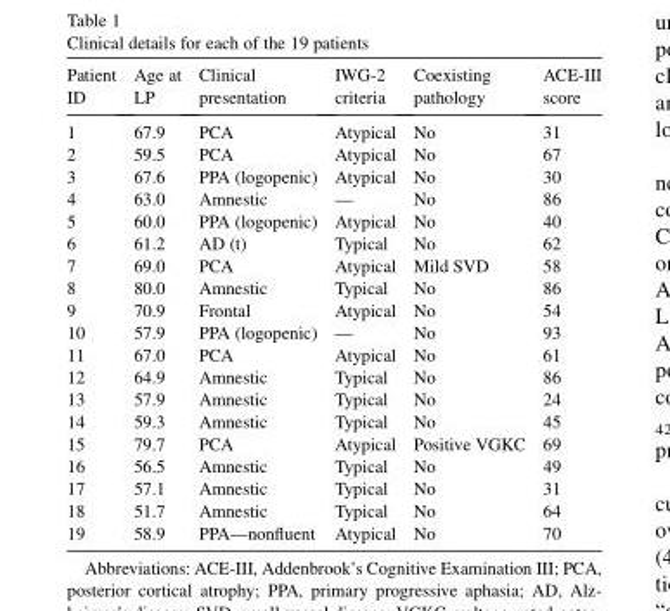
<table><thead><tr><td>Patient ID</td><td>Age at LP</td><td>Clinical presentation</td><td>IWG-2 criteria</td><td>Coexisting pathology</td><td>ACE-III score</td></tr></thead><tbody><tr><td>1</td><td>67.9</td><td>PCA</td><td>Atypical</td><td>No</td><td>31</td></tr><tr><td>2</td><td>59.5</td><td>PCA</td><td>Atypical</td><td>No</td><td>67</td></tr><tr><td>3</td><td>67.6</td><td>PPA (logopenic)</td><td>Atypical</td><td>No</td><td>30</td></tr><tr><td>4</td><td>63.0</td><td>Amnestic</td><td>—</td><td>No</td><td>86</td></tr><tr><td>5</td><td>60.0</td><td>PPA (logopenic)</td><td>Atypical</td><td>No</td><td>40</td></tr><tr><td>6</td><td>61.2</td><td>AD (t)</td><td>Typical</td><td>No</td><td>62</td></tr><tr><td>7</td><td>69.0</td><td>PCA</td><td>Atypical</td><td>Mild SVD</td><td>58</td></tr><tr><td>8</td><td>80.0</td><td>Amnestic</td><td>Typical</td><td>No</td><td>86</td></tr><tr><td>9</td><td>70.9</td><td>Frontal</td><td>Atypical</td><td>No</td><td>54</td></tr><tr><td>10</td><td>57.9</td><td>PPA (logopenic)</td><td>—</td><td>No</td><td>93</td></tr><tr><td>11</td><td>67.0</td><td>PCA</td><td>Atypical</td><td>No</td><td>61</td></tr><tr><td>12</td><td>64.9</td><td>Amnestic</td><td>Typical</td><td>No</td><td>86</td></tr><tr><td>13</td><td>57.9</td><td>Amnestic</td><td>Typical</td><td>No</td><td>24</td></tr><tr><td>14</td><td>59.3</td><td>Amnestic</td><td>Typical</td><td>No</td><td>45</td></tr><tr><td>15</td><td>79.7</td><td>PCA</td><td>Atypical</td><td>Positive VGKC</td><td>69</td></tr><tr><td>16</td><td>56.5</td><td>Amnestic</td><td>Typical</td><td>No</td><td>49</td></tr><tr><td>17</td><td>57.1</td><td>Amnestic</td><td>Typical</td><td>No</td><td>31</td></tr><tr><td>18</td><td>51.7</td><td>Amnestic</td><td>Typical</td><td>No</td><td>64</td></tr><tr><td>19</td><td>58.9</td><td>PPA—nonfluent</td><td>Atypical</td><td>No</td><td>70</td></tr></tbody></table>